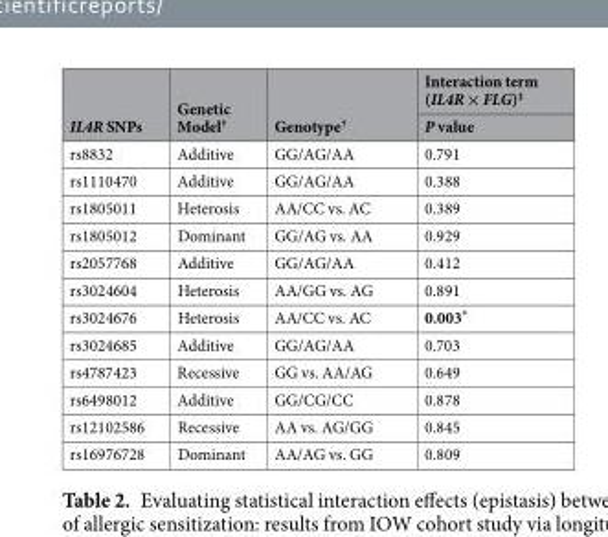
<table><thead><tr><td rowspan="2">IL4R SNPs</td><td rowspan="2">Genetic Model<sup>†</sup></td><td rowspan="2">Genotype<sup>†</sup></td><td rowspan="2">Interaction term (IL4R × FLG)<sup>‡</sup> P value</td></tr><tr></tr></thead><tbody><tr><td>rs8832</td><td>Additive</td><td>GG/AG/AA</td><td>0.791</td></tr><tr><td>rs1110470</td><td>Additive</td><td>GG/AG/AA</td><td>0.388</td></tr><tr><td>rs1805011</td><td>Heterosis</td><td>AA/CC vs. AC</td><td>0.389</td></tr><tr><td>rs1805012</td><td>Dominant</td><td>GG/AG vs. AA</td><td>0.929</td></tr><tr><td>rs2057768</td><td>Additive</td><td>GG/AG/AA</td><td>0.412</td></tr><tr><td>rs3024604</td><td>Heterosis</td><td>AA/GG vs. AG</td><td>0.891</td></tr><tr><td>rs3024676</td><td>Heterosis</td><td>AA/CC vs. AC</td><td>0.003*</td></tr><tr><td>rs3024685</td><td>Additive</td><td>GG/AG/AA</td><td>0.703</td></tr><tr><td>rs4787423</td><td>Recessive</td><td>GG vs. AA/AG</td><td>0.649</td></tr><tr><td>rs6498012</td><td>Additive</td><td>GG/CG/CC</td><td>0.878</td></tr><tr><td>rs12102586</td><td>Recessive</td><td>AA vs. AG/GG</td><td>0.845</td></tr><tr><td>rs16976728</td><td>Dominant</td><td>AA/AG vs. GG</td><td>0.809</td></tr></tbody></table>